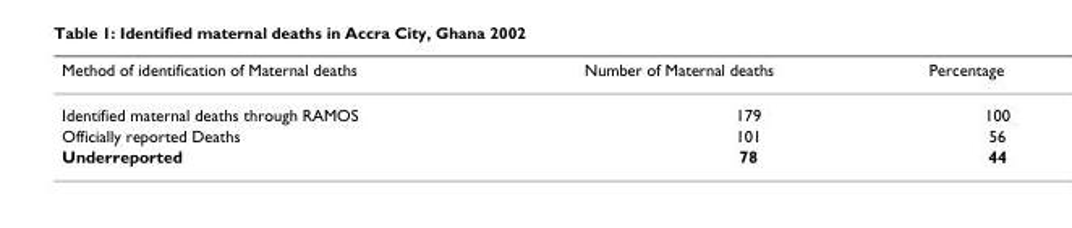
<table><thead><tr><td>Method of identification of Maternal deaths</td><td>Number of Maternal deaths</td><td>Percentage</td></tr></thead><tbody><tr><td>Identified maternal deaths through RAMOS</td><td>179</td><td>100</td></tr><tr><td>Officially reported Deaths</td><td>101</td><td>56</td></tr><tr><td>Underreported</td><td>78</td><td>44</td></tr></tbody></table>